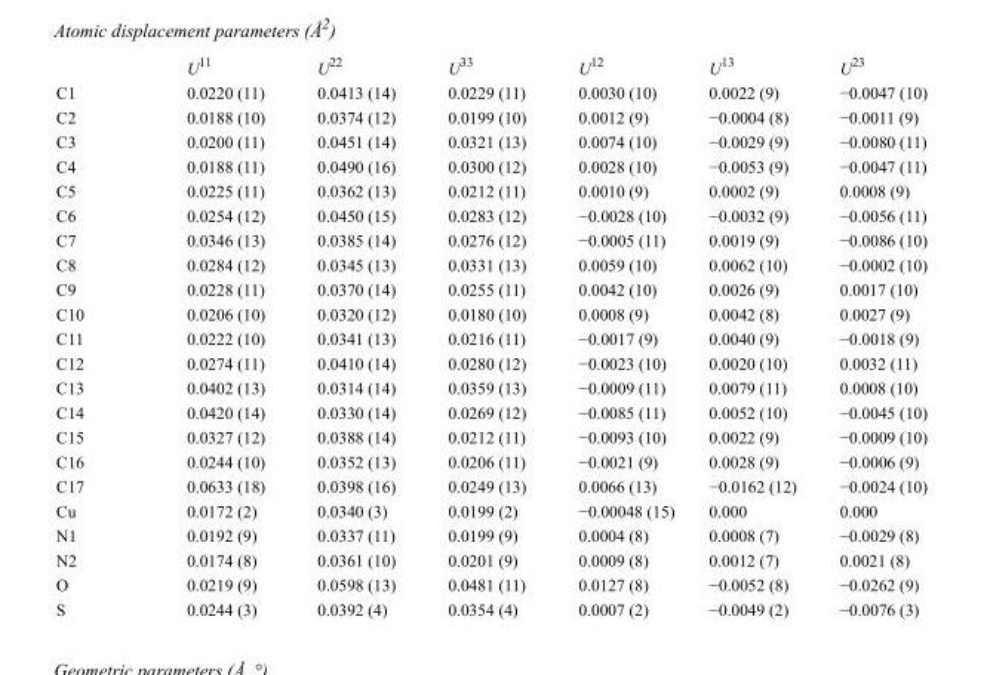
<table><thead><tr><td></td><td>U<sup>11</sup></td><td>U<sup>22</sup></td><td>U<sup>33</sup></td><td>U<sup>12</sup></td><td>U<sup>13</sup></td><td>U<sup>23</sup></td></tr></thead><tbody><tr><td>C1</td><td>0.0220 (11)</td><td>0.0413 (14)</td><td>0.0229 (11)</td><td>0.0030 (10)</td><td>0.0022 (9)</td><td>−0.0047 (10)</td></tr><tr><td>C2</td><td>0.0188 (10)</td><td>0.0374 (12)</td><td>0.0199 (10)</td><td>0.0012 (9)</td><td>−0.0004 (8)</td><td>−0.0011 (9)</td></tr><tr><td>C3</td><td>0.0200 (11)</td><td>0.0451 (14)</td><td>0.0321 (13)</td><td>0.0074 (10)</td><td>−0.0029 (9)</td><td>−0.0080 (11)</td></tr><tr><td>C4</td><td>0.0188 (11)</td><td>0.0490 (16)</td><td>0.0300 (12)</td><td>0.0028 (10)</td><td>−0.0053 (9)</td><td>−0.0047 (11)</td></tr><tr><td>C5</td><td>0.0225 (11)</td><td>0.0362 (13)</td><td>0.0212 (11)</td><td>0.0010 (9)</td><td>0.0002 (9)</td><td>0.0008 (9)</td></tr><tr><td>C6</td><td>0.0254 (12)</td><td>0.0450 (15)</td><td>0.0283 (12)</td><td>−0.0028 (10)</td><td>−0.0032 (9)</td><td>−0.0056 (11)</td></tr><tr><td>C7</td><td>0.0346 (13)</td><td>0.0385 (14)</td><td>0.0276 (12)</td><td>−0.0005 (11)</td><td>0.0019 (9)</td><td>−0.0086 (10)</td></tr><tr><td>C8</td><td>0.0284 (12)</td><td>0.0345 (13)</td><td>0.0331 (13)</td><td>0.0059 (10)</td><td>0.0062 (10)</td><td>−0.0002 (10)</td></tr><tr><td>C9</td><td>0.0228 (11)</td><td>0.0370 (14)</td><td>0.0255 (11)</td><td>0.0042 (10)</td><td>0.0026 (9)</td><td>0.0017 (10)</td></tr><tr><td>C10</td><td>0.0206 (10)</td><td>0.0320 (12)</td><td>0.0180 (10)</td><td>0.0008 (9)</td><td>0.0042 (8)</td><td>0.0027 (9)</td></tr><tr><td>C11</td><td>0.0222 (10)</td><td>0.0341 (13)</td><td>0.0216 (11)</td><td>−0.0017 (9)</td><td>0.0040 (9)</td><td>−0.0018 (9)</td></tr><tr><td>C12</td><td>0.0274 (11)</td><td>0.0410 (14)</td><td>0.0280 (12)</td><td>−0.0023 (10)</td><td>0.0020 (10)</td><td>0.0032 (11)</td></tr><tr><td>C13</td><td>0.0402 (13)</td><td>0.0314 (14)</td><td>0.0359 (13)</td><td>−0.0009 (11)</td><td>0.0079 (11)</td><td>0.0008 (10)</td></tr><tr><td>C14</td><td>0.0420 (14)</td><td>0.0330 (14)</td><td>0.0269 (12)</td><td>−0.0085 (11)</td><td>0.0052 (10)</td><td>−0.0045 (10)</td></tr><tr><td>C15</td><td>0.0327 (12)</td><td>0.0388 (14)</td><td>0.0212 (11)</td><td>−0.0093 (10)</td><td>0.0022 (9)</td><td>−0.0009 (10)</td></tr><tr><td>C16</td><td>0.0244 (10)</td><td>0.0352 (13)</td><td>0.0206 (11)</td><td>−0.0021 (9)</td><td>0.0028 (9)</td><td>−0.0006 (9)</td></tr><tr><td>C17</td><td>0.0633 (18)</td><td>0.0398 (16)</td><td>0.0249 (13)</td><td>0.0066 (13)</td><td>−0.0162 (12)</td><td>−0.0024 (10)</td></tr><tr><td>Cu</td><td>0.0172 (2)</td><td>0.0340 (3)</td><td>0.0199 (2)</td><td>−0.00048 (15)</td><td>0.000</td><td>0.000</td></tr><tr><td>N1</td><td>0.0192 (9)</td><td>0.0337 (11)</td><td>0.0199 (9)</td><td>0.0004 (8)</td><td>0.0008 (7)</td><td>−0.0029 (8)</td></tr><tr><td>N2</td><td>0.0174 (8)</td><td>0.0361 (10)</td><td>0.0201 (9)</td><td>0.0009 (8)</td><td>0.0012 (7)</td><td>0.0021 (8)</td></tr><tr><td>O</td><td>0.0219 (9)</td><td>0.0598 (13)</td><td>0.0481 (11)</td><td>0.0127 (8)</td><td>−0.0052 (8)</td><td>−0.0262 (9)</td></tr><tr><td>S</td><td>0.0244 (3)</td><td>0.0392 (4)</td><td>0.0354 (4)</td><td>0.0007 (2)</td><td>−0.0049 (2)</td><td>−0.0076 (3)</td></tr></tbody></table>